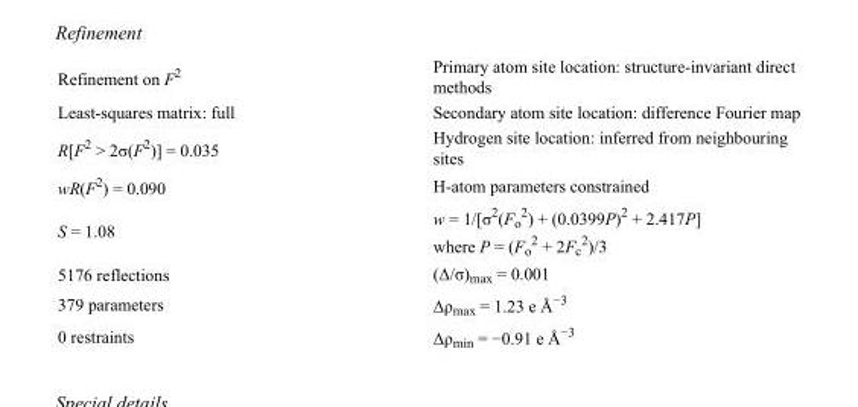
<table><tbody><tr><td>Refinement on F<sup>2</sup></td><td>Primary atom site location: structure-invariant direct methods</td></tr><tr><td>Least-squares matrix: full</td><td>Secondary atom site location: difference Fourier map</td></tr><tr><td>R[F<sup>2</sup> &gt; 2σ(F<sup>2</sup>)] = 0.035</td><td>Hydrogen site location: inferred from neighbouring sites</td></tr><tr><td>wR(F<sup>2</sup>) = 0.090</td><td>H-atom parameters constrained</td></tr><tr><td>S = 1.08</td><td>w = 1/[σ<sup>2</sup>(F<sub>o</sub> <sup>2</sup>) + (0.0399P)<sup>2</sup> + 2.417P] where P = (F<sub>o</sub> <sup>2</sup> + 2F<sub>c</sub> <sup>2</sup>)/3</td></tr><tr><td>5176 reflections</td><td>(Δ/σ)<sub>max</sub> = 0.001</td></tr><tr><td>379 parameters</td><td>Δρ<sub>max</sub> = 1.23 e Å<sup>−3</sup></td></tr><tr><td>0 restraints</td><td>Δρ<sub>min</sub> = −0.91 e Å<sup>−3</sup></td></tr></tbody></table>